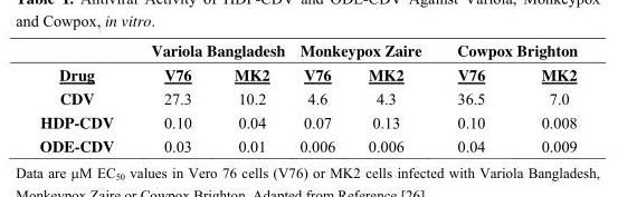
<table><thead><tr><td rowspan="2">Drug</td><td colspan="2">Variola Bangladesh</td><td colspan="2">Monkeypox Zaire</td><td colspan="2">Cowpox Brighton</td></tr><tr><td>V76</td><td>MK2</td><td>V76</td><td>MK2</td><td>V76</td><td>MK2</td></tr></thead><tbody><tr><td>CDV</td><td>27.3</td><td>10.2</td><td>4.6</td><td>4.3</td><td>36.5</td><td>7.0</td></tr><tr><td>HDP-CDV</td><td>0.10</td><td>0.04</td><td>0.07</td><td>0.13</td><td>0.10</td><td>0.008</td></tr><tr><td>ODE-CDV</td><td>0.03</td><td>0.01</td><td>0.006</td><td>0.006</td><td>0.04</td><td>0.009</td></tr></tbody></table>